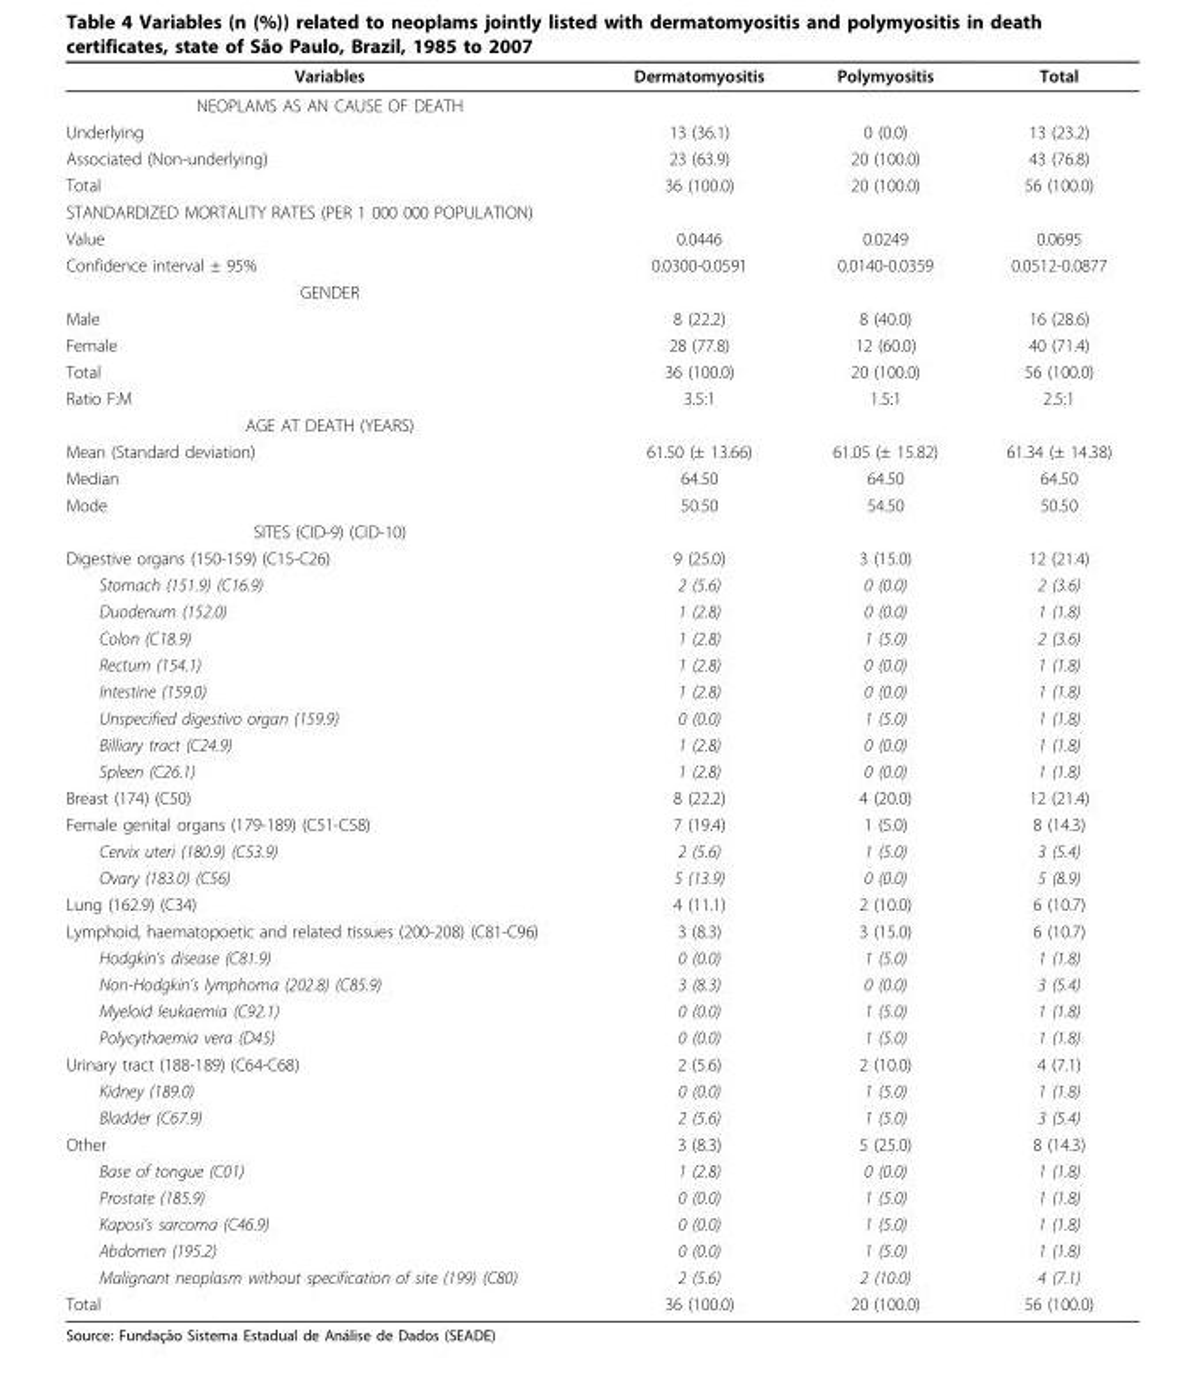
<table><thead><tr><td>Variables</td><td>Dermatomyositis</td><td>Polymyositis</td><td>Total</td></tr></thead><tbody><tr><td colspan="4">NEOPLAMS AS AN CAUSE OF DEATH</td></tr><tr><td>Underlying</td><td>13 (36.1)</td><td>0 (0.0)</td><td>13 (23.2)</td></tr><tr><td>Associated (Non-underlying)</td><td>23 (63.9)</td><td>20 (100.0)</td><td>43 (76.8)</td></tr><tr><td>Total</td><td>36 (100.0)</td><td>20 (100.0)</td><td>56 (100.0)</td></tr><tr><td colspan="4">STANDARDIZED MORTALITY RATES (PER 1 000 000 POPULATION)</td></tr><tr><td>Value</td><td>0.0446</td><td>0.0249</td><td>0.0695</td></tr><tr><td>Confidence interval ± 95%</td><td>0.0300-0.0591</td><td>0.0140-0.0359</td><td>0.0512-0.0877</td></tr><tr><td colspan="4">GENDER</td></tr><tr><td>Male</td><td>8 (22.2)</td><td>8 (40.0)</td><td>16 (28.6)</td></tr><tr><td>Female</td><td>28 (77.8)</td><td>12 (60.0)</td><td>40 (71.4)</td></tr><tr><td>Total</td><td>36 (100.0)</td><td>20 (100.0)</td><td>56 (100.0)</td></tr><tr><td>Ratio F:M</td><td>3.5:1</td><td>1.5:1</td><td>2.5:1</td></tr><tr><td colspan="4">AGE AT DEATH (YEARS)</td></tr><tr><td>Mean (Standard deviation)</td><td>61.50 (± 13.66)</td><td>61.05 (± 15.82)</td><td>61.34 (± 14.38)</td></tr><tr><td>Median</td><td>64.50</td><td>64.50</td><td>64.50</td></tr><tr><td>Mode</td><td>50.50</td><td>54.50</td><td>50.50</td></tr><tr><td colspan="4">SITES (CID-9) (CID-10)</td></tr><tr><td>Digestive organs (150-159) (C15-C26)</td><td>9 (25.0)</td><td>3 (15.0)</td><td>12 (21.4)</td></tr><tr><td>Stomach (151.9) (C16.9)</td><td>2 (5.6)</td><td>0 (0.0)</td><td>2 (3.6)</td></tr><tr><td>Duodenum (152.0)</td><td>1 (2.8)</td><td>0 (0.0)</td><td>1 (1.8)</td></tr><tr><td>Colon (C18.9)</td><td>1 (2.8)</td><td>1 (5.0)</td><td>2 (3.6)</td></tr><tr><td>Rectum (154.1)</td><td>1 (2.8)</td><td>0 (0.0)</td><td>1 (1.8)</td></tr><tr><td>Intestine (159.0)</td><td>1 (2.8)</td><td>0 (0.0)</td><td>1 (1.8)</td></tr><tr><td>Unspecified digestivo organ (159.9)</td><td>0 (0.0)</td><td>1 (5.0)</td><td>1 (1.8)</td></tr><tr><td>Billiary tract (C24.9)</td><td>1 (2.8)</td><td>0 (0.0)</td><td>1 (1.8)</td></tr><tr><td>Spleen (C26.1)</td><td>1 (2.8)</td><td>0 (0.0)</td><td>1 (1.8)</td></tr><tr><td>Breast (174) (C50)</td><td>8 (22.2)</td><td>4 (20.0)</td><td>12 (21.4)</td></tr><tr><td>Female genital organs (179-189) (C51-C58)</td><td>7 (19.4)</td><td>1 (5.0)</td><td>8 (14.3)</td></tr><tr><td>Cervix uteri (180.9) (C53.9)</td><td>2 (5.6)</td><td>1 (5.0)</td><td>3 (5.4)</td></tr><tr><td>Ovary (183.0) (C56)</td><td>5 (13.9)</td><td>0 (0.0)</td><td>5 (8.9)</td></tr><tr><td>Lung (162.9) (C34)</td><td>4 (11.1)</td><td>2 (10.0)</td><td>6 (10.7)</td></tr><tr><td>Lymphoid, haematopoetic and related tissues (200-208) (C81-C96)</td><td>3 (8.3)</td><td>3 (15.0)</td><td>6 (10.7)</td></tr><tr><td>Hodgkin’s disease (C81.9)</td><td>0 (0.0)</td><td>1 (5.0)</td><td>1 (1.8)</td></tr><tr><td>Non-Hodgkin’s lymphoma (202.8) (C85.9)</td><td>3 (8.3)</td><td>0 (0.0)</td><td>3 (5.4)</td></tr><tr><td>Myeloid leukaemia (C92.1)</td><td>0 (0.0)</td><td>1 (5.0)</td><td>1 (1.8)</td></tr><tr><td>Polycythaemia vera (D45)</td><td>0 (0.0)</td><td>1 (5.0)</td><td>1 (1.8)</td></tr><tr><td>Urinary tract (188-189) (C64-C68)</td><td>2 (5.6)</td><td>2 (10.0)</td><td>4 (7.1)</td></tr><tr><td>Kidney (189.0)</td><td>0 (0.0)</td><td>1 (5.0)</td><td>1 (1.8)</td></tr><tr><td>Bladder (C67.9)</td><td>2 (5.6)</td><td>1 (5.0)</td><td>3 (5.4)</td></tr><tr><td>Other</td><td>3 (8.3)</td><td>5 (25.0)</td><td>8 (14.3)</td></tr><tr><td>Base of tongue (C01)</td><td>1 (2.8)</td><td>0 (0.0)</td><td>1 (1.8)</td></tr><tr><td>Prostate (185.9)</td><td>0 (0.0)</td><td>1 (5.0)</td><td>1 (1.8)</td></tr><tr><td>Kaposi’s sarcoma (C46.9)</td><td>0 (0.0)</td><td>1 (5.0)</td><td>1 (1.8)</td></tr><tr><td>Abdomen (195.2)</td><td>0 (0.0)</td><td>1 (5.0)</td><td>1 (1.8)</td></tr><tr><td>Malignant neoplasm without specification of site (199) (C80)</td><td>2 (5.6)</td><td>2 (10.0)</td><td>4 (7.1)</td></tr><tr><td>Total</td><td>36 (100.0)</td><td>20 (100.0)</td><td>56 (100.0)</td></tr></tbody></table>